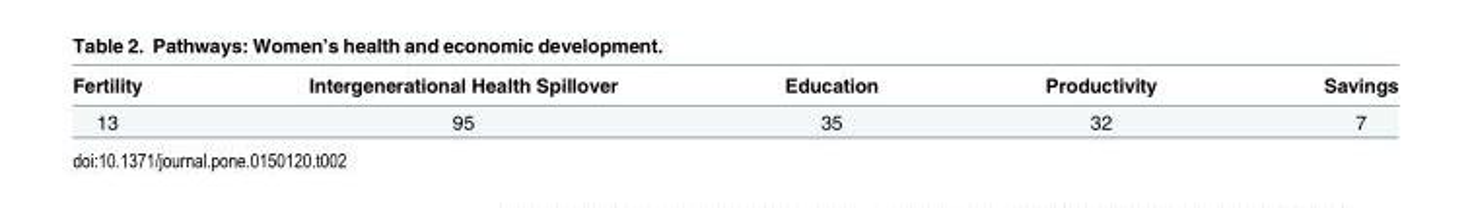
<table><thead><tr><td>Fertility</td><td>Intergenerational Health Spillover</td><td>Education</td><td>Productivity</td><td>Savings</td></tr></thead><tbody><tr><td>13</td><td>95</td><td>35</td><td>32</td><td>7</td></tr></tbody></table>